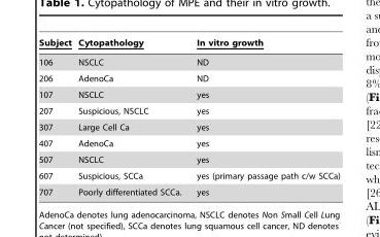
<table><thead><tr><td>Subject</td><td>Cytopathology</td><td>In vitro growth</td></tr></thead><tbody><tr><td>106</td><td>NSCLC</td><td>ND</td></tr><tr><td>206</td><td>AdenoCa</td><td>ND</td></tr><tr><td>107</td><td>NSCLC</td><td>yes</td></tr><tr><td>207</td><td>Suspicious, NSCLC</td><td>yes</td></tr><tr><td>307</td><td>Large Cell Ca</td><td>yes</td></tr><tr><td>407</td><td>AdenoCa</td><td>yes</td></tr><tr><td>507</td><td>NSCLC</td><td>yes</td></tr><tr><td>607</td><td>Suspicious, SCCa</td><td>yes (primary passage path c/w SCCa)</td></tr><tr><td>707</td><td>Poorly differentiated SCCa.</td><td>yes</td></tr></tbody></table>